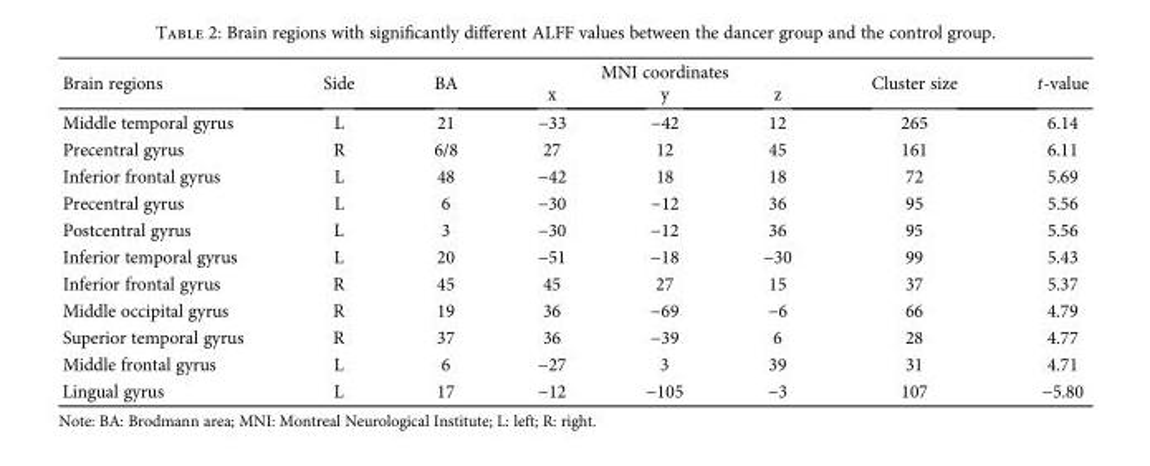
<table><thead><tr><td rowspan="2">Brain regions</td><td rowspan="2">Side</td><td rowspan="2">BA</td><td colspan="3">MNI coordinates</td><td rowspan="2">Cluster size</td><td rowspan="2">t-value</td></tr><tr><td>x</td><td>y</td><td>z</td></tr></thead><tbody><tr><td>Middle temporal gyrus</td><td>L</td><td>21</td><td>−33</td><td>−42</td><td>12</td><td>265</td><td>6.14</td></tr><tr><td>Precentral gyrus</td><td>R</td><td>6/8</td><td>27</td><td>12</td><td>45</td><td>161</td><td>6.11</td></tr><tr><td>Inferior frontal gyrus</td><td>L</td><td>48</td><td>−42</td><td>18</td><td>18</td><td>72</td><td>5.69</td></tr><tr><td>Precentral gyrus</td><td>L</td><td>6</td><td>−30</td><td>−12</td><td>36</td><td>95</td><td>5.56</td></tr><tr><td>Postcentral gyrus</td><td>L</td><td>3</td><td>−30</td><td>−12</td><td>36</td><td>95</td><td>5.56</td></tr><tr><td>Inferior temporal gyrus</td><td>L</td><td>20</td><td>−51</td><td>−18</td><td>−30</td><td>99</td><td>5.43</td></tr><tr><td>Inferior frontal gyrus</td><td>R</td><td>45</td><td>45</td><td>27</td><td>15</td><td>37</td><td>5.37</td></tr><tr><td>Middle occipital gyrus</td><td>R</td><td>19</td><td>36</td><td>−69</td><td>−6</td><td>66</td><td>4.79</td></tr><tr><td>Superior temporal gyrus</td><td>R</td><td>37</td><td>36</td><td>−39</td><td>6</td><td>28</td><td>4.77</td></tr><tr><td>Middle frontal gyrus</td><td>L</td><td>6</td><td>−27</td><td>3</td><td>39</td><td>31</td><td>4.71</td></tr><tr><td>Lingual gyrus</td><td>L</td><td>17</td><td>−12</td><td>−105</td><td>−3</td><td>107</td><td>−5.80</td></tr></tbody></table>